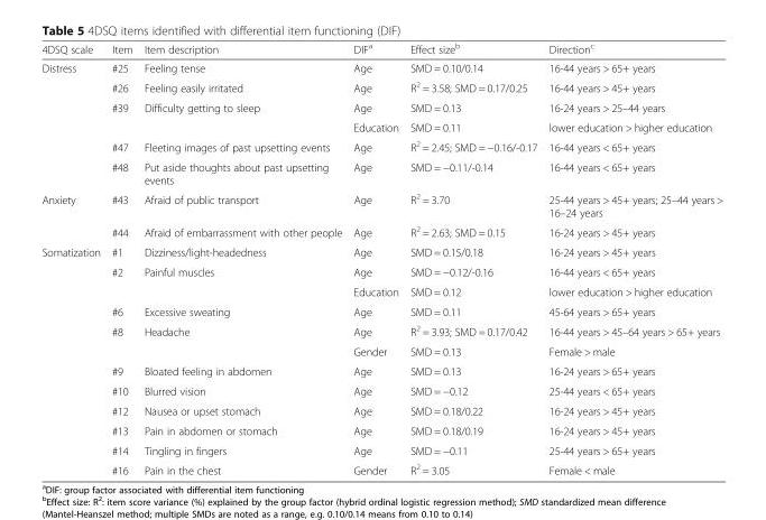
<table><thead><tr><td>4DSQ scale</td><td>Item</td><td>Item description</td><td>DIF<sup>a</sup></td><td>Effect size<sup>b</sup></td><td>Direction<sup>c</sup></td></tr></thead><tbody><tr><td rowspan="6">Distress</td><td>#25</td><td>Feeling tense</td><td>Age</td><td>SMD = 0.10/0.14</td><td>16-44 years &gt; 65+ years</td></tr><tr><td>#26</td><td>Feeling easily irritated</td><td>Age</td><td>R<sup>2</sup> = 3.58; SMD = 0.17/0.25</td><td>16-44 years &gt; 45+ years</td></tr><tr><td>#39</td><td>Difficulty getting to sleep</td><td>Age</td><td>SMD = 0.13</td><td>16-24 years &gt; 25–44 years</td></tr><tr><td></td><td></td><td>Education</td><td>SMD = 0.11</td><td>lower education &gt; higher education</td></tr><tr><td>#47</td><td>Fleeting images of past upsetting events</td><td>Age</td><td>R<sup>2</sup> = 2.45; SMD = −0.16/-0.17</td><td>16-44 years &lt; 65+ years</td></tr><tr><td>#48</td><td>Put aside thoughts about past upsetting events</td><td>Age</td><td>SMD = −0.11/-0.14</td><td>16-44 years &lt; 65+ years</td></tr><tr><td rowspan="2">Anxiety</td><td>#43</td><td>Afraid of public transport</td><td>Age</td><td>R<sup>2</sup> = 3.70</td><td>25-44 years &gt; 45+ years; 25–44 years &gt; 16–24 years</td></tr><tr><td>#44</td><td>Afraid of embarrassment with other people</td><td>Age</td><td>R<sup>2</sup> = 2.63; SMD = 0.15</td><td>16-24 years &gt; 45+ years</td></tr><tr><td rowspan="12">Somatization</td><td>#1</td><td>Dizziness/light-headedness</td><td>Age</td><td>SMD = 0.15/0.18</td><td>16-24 years &gt; 45+ years</td></tr><tr><td>#2</td><td>Painful muscles</td><td>Age</td><td>SMD = −0.12/-0.16</td><td>16-44 years &lt; 65+ years</td></tr><tr><td></td><td></td><td>Education</td><td>SMD = 0.12</td><td>lower education &gt; higher education</td></tr><tr><td>#6</td><td>Excessive sweating</td><td>Age</td><td>SMD = 0.11</td><td>45-64 years &gt; 65+ years</td></tr><tr><td>#8</td><td>Headache</td><td>Age</td><td>R<sup>2</sup> = 3.93; SMD = 0.17/0.42</td><td>16-44 years &gt; 45–64 years &gt; 65+ years</td></tr><tr><td></td><td></td><td>Gender</td><td>SMD = 0.13</td><td>Female &gt; male</td></tr><tr><td>#9</td><td>Bloated feeling in abdomen</td><td>Age</td><td>SMD = 0.13</td><td>16-24 years &gt; 65+ years</td></tr><tr><td>#10</td><td>Blurred vision</td><td>Age</td><td>SMD = −0.12</td><td>25-44 years &lt; 65+ years</td></tr><tr><td>#12</td><td>Nausea or upset stomach</td><td>Age</td><td>SMD = 0.18/0.22</td><td>16-24 years &gt; 45+ years</td></tr><tr><td>#13</td><td>Pain in abdomen or stomach</td><td>Age</td><td>SMD = 0.18/0.19</td><td>16-24 years &gt; 45+ years</td></tr><tr><td>#14</td><td>Tingling in fingers</td><td>Age</td><td>SMD = −0.11</td><td>25-44 years &gt; 65+ years</td></tr><tr><td>#16</td><td>Pain in the chest</td><td>Gender</td><td>R<sup>2</sup> = 3.05</td><td>Female &lt; male</td></tr></tbody></table>